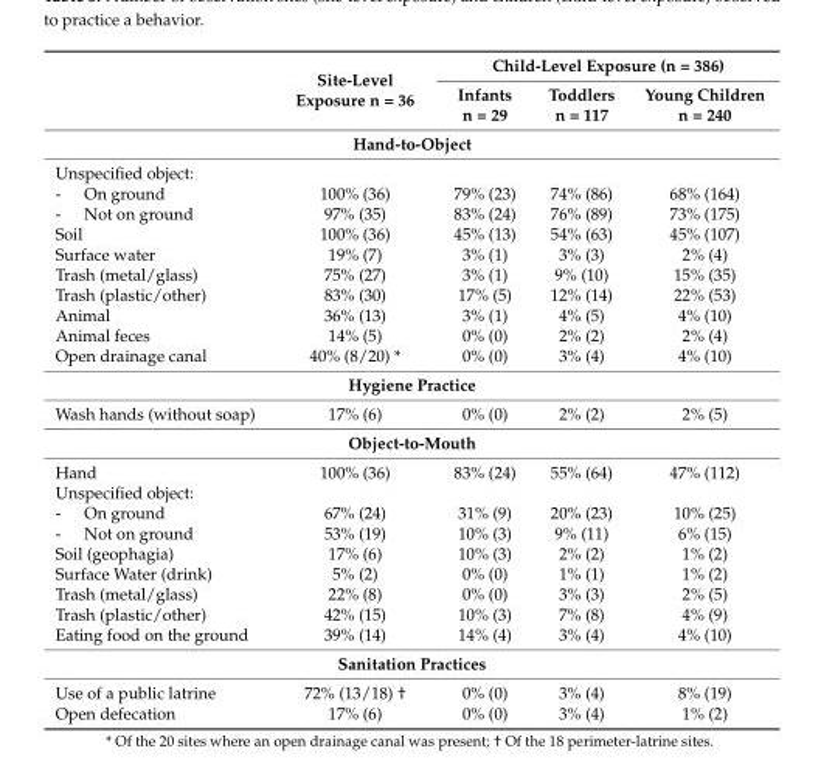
<table><thead><tr><td rowspan="2"></td><td rowspan="2">Site-Level Exposure n = 36</td><td colspan="3">Child-Level Exposure (n = 386)</td></tr><tr><td>Infants n = 29</td><td>Toddlers n = 117</td><td>Young Children n = 240</td></tr></thead><tbody><tr><td colspan="5">Hand-to-Object</td></tr><tr><td colspan="5">Unspecified object:</td></tr><tr><td>- On ground</td><td>100% (36)</td><td>79% (23)</td><td>74% (86)</td><td>68% (164)</td></tr><tr><td>- Not on ground</td><td>97% (35)</td><td>83% (24)</td><td>76% (89)</td><td>73% (175)</td></tr><tr><td>Soil</td><td>100% (36)</td><td>45% (13)</td><td>54% (63)</td><td>45% (107)</td></tr><tr><td>Surface water</td><td>19% (7)</td><td>3% (1)</td><td>3% (3)</td><td>2% (4)</td></tr><tr><td>Trash (metal/glass)</td><td>75% (27)</td><td>3% (1)</td><td>9% (10)</td><td>15% (35)</td></tr><tr><td>Trash (plastic/other)</td><td>83% (30)</td><td>17% (5)</td><td>12% (14)</td><td>22% (53)</td></tr><tr><td>Animal</td><td>36% (13)</td><td>3% (1)</td><td>4% (5)</td><td>4% (10)</td></tr><tr><td>Animal feces</td><td>14% (5)</td><td>0% (0)</td><td>2% (2)</td><td>2% (4)</td></tr><tr><td>Open drainage canal</td><td>40% (8/20) *</td><td>0% (0)</td><td>3% (4)</td><td>4% (10)</td></tr><tr><td colspan="5">Hygiene Practice</td></tr><tr><td>Wash hands (without soap)</td><td>17% (6)</td><td>0% (0)</td><td>2% (2)</td><td>2% (5)</td></tr><tr><td colspan="5">Object-to-Mouth</td></tr><tr><td>Hand</td><td>100% (36)</td><td>83% (24)</td><td>55% (64)</td><td>47% (112)</td></tr><tr><td colspan="5">Unspecified object:</td></tr><tr><td>- On ground</td><td>67% (24)</td><td>31% (9)</td><td>20% (23)</td><td>10% (25)</td></tr><tr><td>- Not on ground</td><td>53% (19)</td><td>10% (3)</td><td>9% (11)</td><td>6% (15)</td></tr><tr><td>Soil (geophagia)</td><td>17% (6)</td><td>10% (3)</td><td>2% (2)</td><td>1% (2)</td></tr><tr><td>Surface Water (drink)</td><td>5% (2)</td><td>0% (0)</td><td>1% (1)</td><td>1% (2)</td></tr><tr><td>Trash (metal/glass)</td><td>22% (8)</td><td>0% (0)</td><td>3% (3)</td><td>2% (5)</td></tr><tr><td>Trash (plastic/other)</td><td>42% (15)</td><td>10% (3)</td><td>7% (8)</td><td>4% (9)</td></tr><tr><td>Eating food on the ground</td><td>39% (14)</td><td>14% (4)</td><td>3% (4)</td><td>4% (10)</td></tr><tr><td colspan="5">Sanitation Practices</td></tr><tr><td>Use of a public latrine</td><td>72% (13/18) †</td><td>0% (0)</td><td>3% (4)</td><td>8% (19)</td></tr><tr><td>Open defecation</td><td>17% (6)</td><td>0% (0)</td><td>3% (4)</td><td>1% (2)</td></tr></tbody></table>